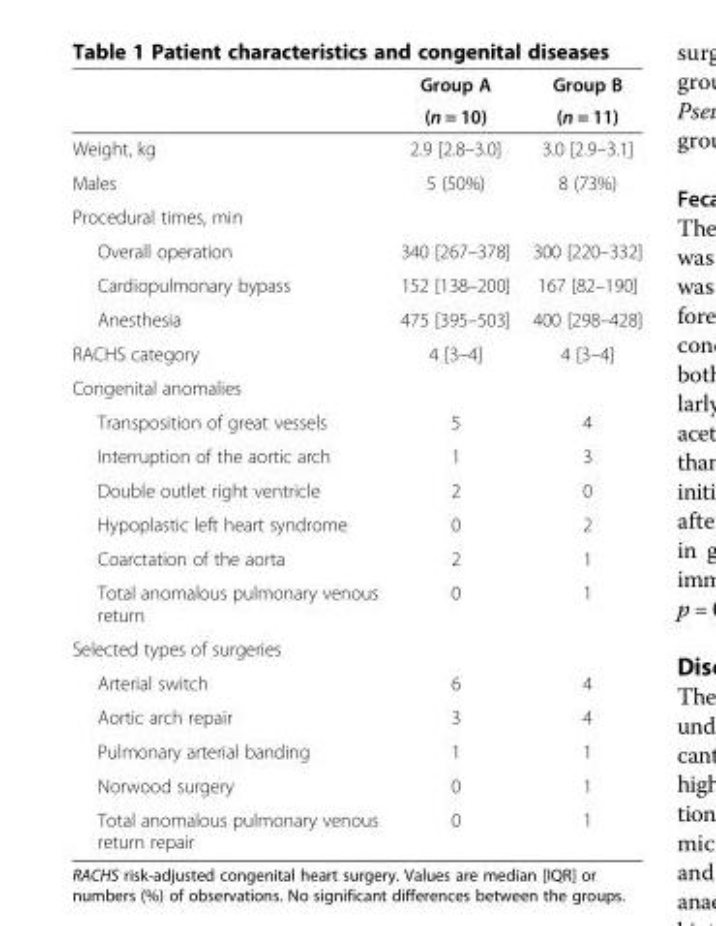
<table><thead><tr><td rowspan="2"></td><td rowspan="2">Group A (n = 10)</td><td rowspan="2">Group B (n = 11)</td></tr><tr></tr></thead><tbody><tr><td>Weight, kg</td><td>2.9 [2.8–3.0]</td><td>3.0 [2.9–3.1]</td></tr><tr><td>Males</td><td>5 (50%)</td><td>8 (73%)</td></tr><tr><td colspan="3">Procedural times, min</td></tr><tr><td>Overall operation</td><td>340 [267–378]</td><td>300 [220–332]</td></tr><tr><td>Cardiopulmonary bypass</td><td>152 [138–200]</td><td>167 [82–190]</td></tr><tr><td>Anesthesia</td><td>475 [395–503]</td><td>400 [298–428]</td></tr><tr><td>RACHS category</td><td>4 [3–4]</td><td>4 [3–4]</td></tr><tr><td colspan="3">Congenital anomalies</td></tr><tr><td>Transposition of great vessels</td><td>5</td><td>4</td></tr><tr><td>Interruption of the aortic arch</td><td>1</td><td>3</td></tr><tr><td>Double outlet right ventricle</td><td>2</td><td>0</td></tr><tr><td>Hypoplastic left heart syndrome</td><td>0</td><td>2</td></tr><tr><td>Coarctation of the aorta</td><td>2</td><td>1</td></tr><tr><td>Total anomalous pulmonary venous return</td><td>0</td><td>1</td></tr><tr><td colspan="3">Selected types of surgeries</td></tr><tr><td>Arterial switch</td><td>6</td><td>4</td></tr><tr><td>Aortic arch repair</td><td>3</td><td>4</td></tr><tr><td>Pulmonary arterial banding</td><td>1</td><td>1</td></tr><tr><td>Norwood surgery</td><td>0</td><td>1</td></tr><tr><td>Total anomalous pulmonary venous return repair</td><td>0</td><td>1</td></tr></tbody></table>